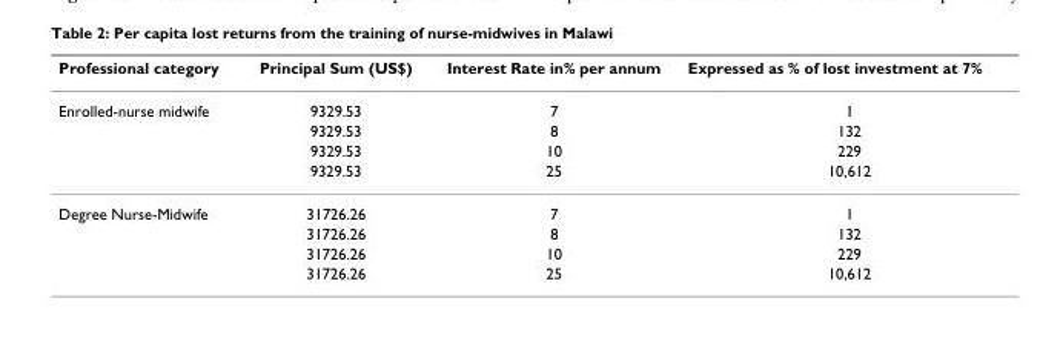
<table><thead><tr><td>Professional category</td><td>Principal Sum (US$)</td><td>Interest Rate in% per annum</td><td>Expressed as % of lost investment at 7%</td></tr></thead><tbody><tr><td rowspan="4">Enrolled-nurse midwife</td><td>9329.53</td><td>7</td><td>1</td></tr><tr><td>9329.53</td><td>8</td><td>132</td></tr><tr><td>9329.53</td><td>10</td><td>229</td></tr><tr><td>9329.53</td><td>25</td><td>10,612</td></tr><tr><td rowspan="4">Degree Nurse-Midwife</td><td>31726.26</td><td>7</td><td>1</td></tr><tr><td>31726.26</td><td>8</td><td>132</td></tr><tr><td>31726.26</td><td>10</td><td>229</td></tr><tr><td>31726.26</td><td>25</td><td>10,612</td></tr></tbody></table>